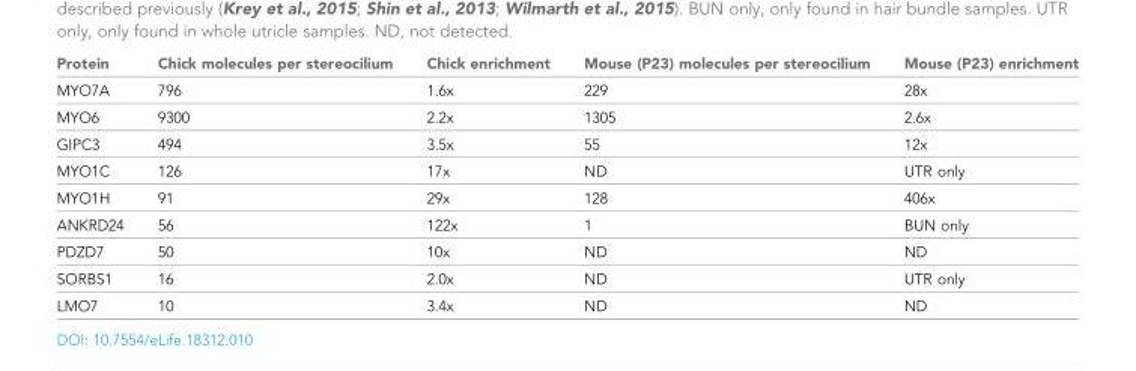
<table><thead><tr><td>Protein</td><td>Chick molecules per stereocilium</td><td>Chick enrichment</td><td>Mouse (P23) molecules per stereocilium</td><td>Mouse (P23) enrichment</td></tr></thead><tbody><tr><td>MYO7A</td><td>796</td><td>1.6x</td><td>229</td><td>28x</td></tr><tr><td>MYO6</td><td>9300</td><td>2.2x</td><td>1305</td><td>2.6x</td></tr><tr><td>GIPC3</td><td>494</td><td>3.5x</td><td>55</td><td>12x</td></tr><tr><td>MYO1C</td><td>126</td><td>17x</td><td>ND</td><td>UTR only</td></tr><tr><td>MYO1H</td><td>91</td><td>29x</td><td>128</td><td>406x</td></tr><tr><td>ANKRD24</td><td>56</td><td>122x</td><td>1</td><td>BUN only</td></tr><tr><td>PDZD7</td><td>50</td><td>10x</td><td>ND</td><td>ND</td></tr><tr><td>SORBS1</td><td>16</td><td>2.0x</td><td>ND</td><td>UTR only</td></tr><tr><td>LMO7</td><td>10</td><td>3.4x</td><td>ND</td><td>ND</td></tr></tbody></table>